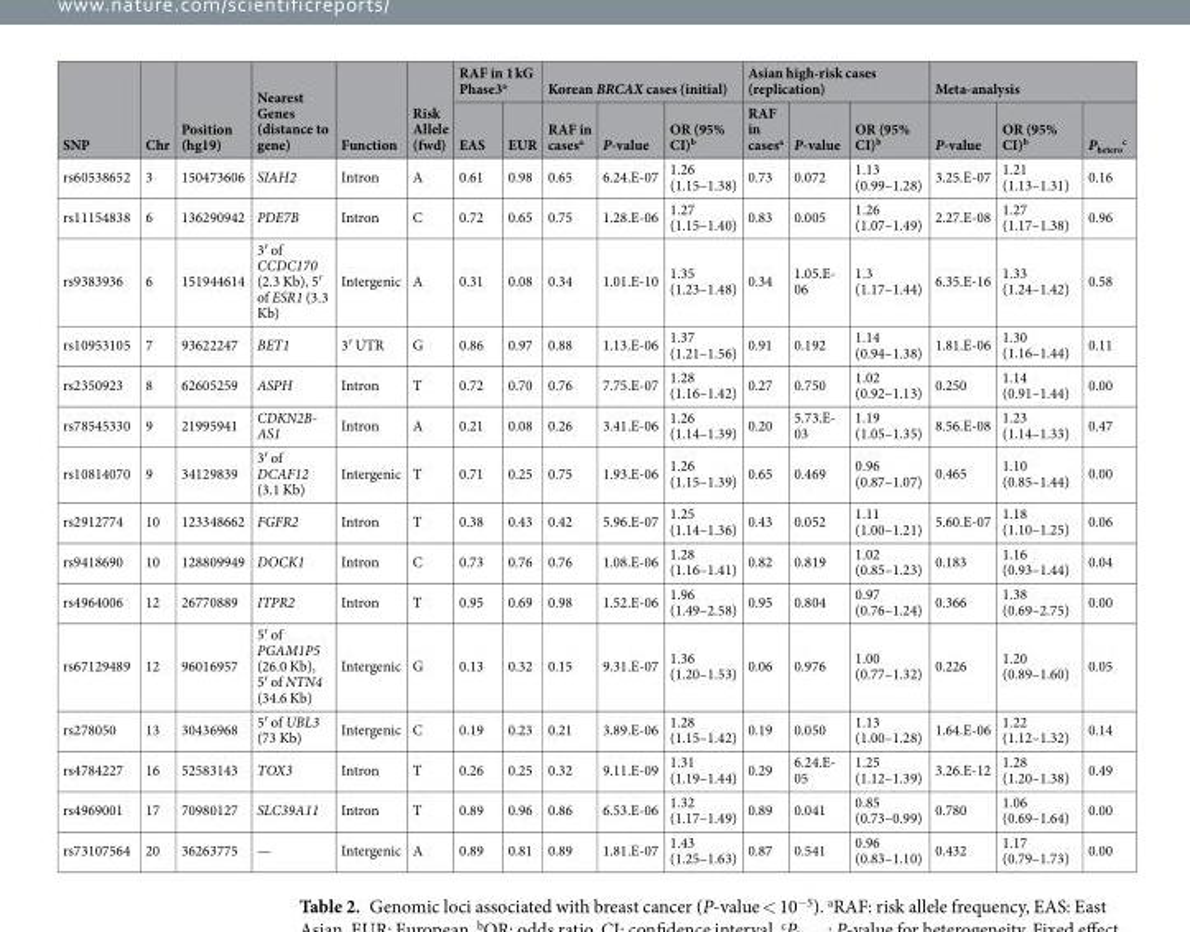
<table><thead><tr><td rowspan="2">SNP</td><td rowspan="2">Chr</td><td rowspan="2">Position (hg19)</td><td rowspan="2">Nearest Genes (distance to gene)</td><td rowspan="2">Function</td><td rowspan="2">Risk Allele (fwd)</td><td colspan="2">RAF in 1 kG Phase3<sup>a</sup></td><td colspan="3">Korean BRCAX cases (initial)</td><td colspan="3">Asian high-risk cases (replication)</td><td colspan="3">Meta-analysis</td></tr><tr><td>EAS</td><td>EUR</td><td>RAF in cases<sup>a</sup></td><td>P-value</td><td>OR (95% CI)<sup>b</sup></td><td>RAF in cases<sup>a</sup></td><td>P-value</td><td>OR (95% CI)<sup>b</sup></td><td>P-value</td><td>OR (95% CI)<sup>b</sup></td><td>P<sub>hetero</sub> <sup>c</sup></td></tr></thead><tbody><tr><td>rs60538652</td><td>3</td><td>150473606</td><td>SIAH2</td><td>Intron</td><td>A</td><td>0.61</td><td>0.98</td><td>0.65</td><td>6.24.E-07</td><td>1.26 (1.15–1.38)</td><td>0.73</td><td>0.072</td><td>1.13 (0.99–1.28)</td><td>3.25.E-07</td><td>1.21 (1.13–1.31)</td><td>0.16</td></tr><tr><td>rs11154838</td><td>6</td><td>136290942</td><td>PDE7B</td><td>Intron</td><td>C</td><td>0.72</td><td>0.65</td><td>0.75</td><td>1.28.E-06</td><td>1.27 (1.15–1.40)</td><td>0.83</td><td>0.005</td><td>1.26 (1.07–1.49)</td><td>2.27.E-08</td><td>1.27 (1.17–1.38)</td><td>0.96</td></tr><tr><td>rs9383936</td><td>6</td><td>151944614</td><td>3′ of CCDC170 (2.3 Kb), 5′ of ESR1 (3.3 Kb)</td><td>Intergenic</td><td>A</td><td>0.31</td><td>0.08</td><td>0.34</td><td>1.01.E-10</td><td>1.35 (1.23–1.48)</td><td>0.34</td><td>1.05.E- 06</td><td>1.3 (1.17–1.44)</td><td>6.35.E-16</td><td>1.33 (1.24–1.42)</td><td>0.58</td></tr><tr><td>rs10953105</td><td>7</td><td>93622247</td><td>BET1</td><td>3′ UTR</td><td>G</td><td>0.86</td><td>0.97</td><td>0.88</td><td>1.13.E-06</td><td>1.37 (1.21–1.56)</td><td>0.91</td><td>0.192</td><td>1.14 (0.94–1.38)</td><td>1.81.E-06</td><td>1.30 (1.16–1.44)</td><td>0.11</td></tr><tr><td>rs2350923</td><td>8</td><td>62605259</td><td>ASPH</td><td>Intron</td><td>T</td><td>0.72</td><td>0.70</td><td>0.76</td><td>7.75.E-07</td><td>1.28 (1.16–1.42)</td><td>0.27</td><td>0.750</td><td>1.02 (0.92–1.13)</td><td>0.250</td><td>1.14 (0.91–1.44)</td><td>0.00</td></tr><tr><td>rs78545330</td><td>9</td><td>21995941</td><td>CDKN2B- AS1</td><td>Intron</td><td>A</td><td>0.21</td><td>0.08</td><td>0.26</td><td>3.41.E-06</td><td>1.26 (1.14–1.39)</td><td>0.20</td><td>5.73.E- 03</td><td>1.19 (1.05–1.35)</td><td>8.56.E-08</td><td>1.23 (1.14–1.33)</td><td>0.47</td></tr><tr><td>rs10814070</td><td>9</td><td>34129839</td><td>3′ of DCAF12 (3.1 Kb)</td><td>Intergenic</td><td>T</td><td>0.71</td><td>0.25</td><td>0.75</td><td>1.93.E-06</td><td>1.26 (1.15–1.39)</td><td>0.65</td><td>0.469</td><td>0.96 (0.87–1.07)</td><td>0.465</td><td>1.10 (0.85–1.44)</td><td>0.00</td></tr><tr><td>rs2912774</td><td>10</td><td>123348662</td><td>FGFR2</td><td>Intron</td><td>T</td><td>0.38</td><td>0.43</td><td>0.42</td><td>5.96.E-07</td><td>1.25 (1.14–1.36)</td><td>0.43</td><td>0.052</td><td>1.11 (1.00–1.21)</td><td>5.60.E-07</td><td>1.18 (1.10–1.25)</td><td>0.06</td></tr><tr><td>rs9418690</td><td>10</td><td>128809949</td><td>DOCK1</td><td>Intron</td><td>C</td><td>0.73</td><td>0.76</td><td>0.76</td><td>1.08.E-06</td><td>1.28 (1.16–1.41)</td><td>0.82</td><td>0.819</td><td>1.02 (0.85–1.23)</td><td>0.183</td><td>1.16 (0.93–1.44)</td><td>0.04</td></tr><tr><td>rs4964006</td><td>12</td><td>26770889</td><td>ITPR2</td><td>Intron</td><td>T</td><td>0.95</td><td>0.69</td><td>0.98</td><td>1.52.E-06</td><td>1.96 (1.49–2.58)</td><td>0.95</td><td>0.804</td><td>0.97 (0.76–1.24)</td><td>0.366</td><td>1.38 (0.69–2.75)</td><td>0.00</td></tr><tr><td>rs67129489</td><td>12</td><td>96016957</td><td>5′ of PGAM1P5 (26.0 Kb), 5′ of NTN4 (34.6 Kb)</td><td>Intergenic</td><td>G</td><td>0.13</td><td>0.32</td><td>0.15</td><td>9.31.E-07</td><td>1.36 (1.20–1.53)</td><td>0.06</td><td>0.976</td><td>1.00 (0.77–1.32)</td><td>0.226</td><td>1.20 (0.89–1.60)</td><td>0.05</td></tr><tr><td>rs278050</td><td>13</td><td>30436968</td><td>5′ of UBL3 (73 Kb)</td><td>Intergenic</td><td>C</td><td>0.19</td><td>0.23</td><td>0.21</td><td>3.89.E-06</td><td>1.28 (1.15–1.42)</td><td>0.19</td><td>0.050</td><td>1.13 (1.00–1.28)</td><td>1.64.E-06</td><td>1.22 (1.12–1.32)</td><td>0.14</td></tr><tr><td>rs4784227</td><td>16</td><td>52583143</td><td>TOX3</td><td>Intron</td><td>T</td><td>0.26</td><td>0.25</td><td>0.32</td><td>9.11.E-09</td><td>1.31 (1.19–1.44)</td><td>0.29</td><td>6.24.E- 05</td><td>1.25 (1.12–1.39)</td><td>3.26.E-12</td><td>1.28 (1.20–1.38)</td><td>0.49</td></tr><tr><td>rs4969001</td><td>17</td><td>70980127</td><td>SLC39A11</td><td>Intron</td><td>T</td><td>0.89</td><td>0.96</td><td>0.86</td><td>6.53.E-06</td><td>1.32 (1.17–1.49)</td><td>0.89</td><td>0.041</td><td>0.85 (0.73–0.99)</td><td>0.780</td><td>1.06 (0.69–1.64)</td><td>0.00</td></tr><tr><td>rs73107564</td><td>20</td><td>36263775</td><td>—</td><td>Intergenic</td><td>A</td><td>0.89</td><td>0.81</td><td>0.89</td><td>1.81.E-07</td><td>1.43 (1.25–1.63)</td><td>0.87</td><td>0.541</td><td>0.96 (0.83–1.10)</td><td>0.432</td><td>1.17 (0.79–1.73)</td><td>0.00</td></tr></tbody></table>